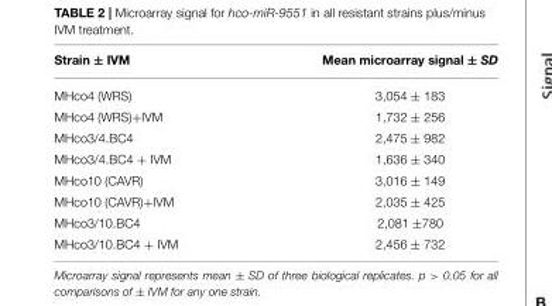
<table><thead><tr><td>Strain ± IVM</td><td>Mean microarray signal ± SD</td></tr></thead><tbody><tr><td>MHco4 (WRS)</td><td>3,054 ± 183</td></tr><tr><td>MHco4 (WRS)+IVM</td><td>1,732 ± 256</td></tr><tr><td>MHco3/4.BC4</td><td>2,475 ± 982</td></tr><tr><td>MHco3/4.BC4 + IVM</td><td>1,636 ± 340</td></tr><tr><td>MHco10 (CAVR)</td><td>3,016 ± 149</td></tr><tr><td>MHco10 (CAVR)+IVM</td><td>2,035 ± 425</td></tr><tr><td>MHco3/10.BC4</td><td>2,081 ±780</td></tr><tr><td>MHco3/10.BC4 + IVM</td><td>2,456 ± 732</td></tr></tbody></table>